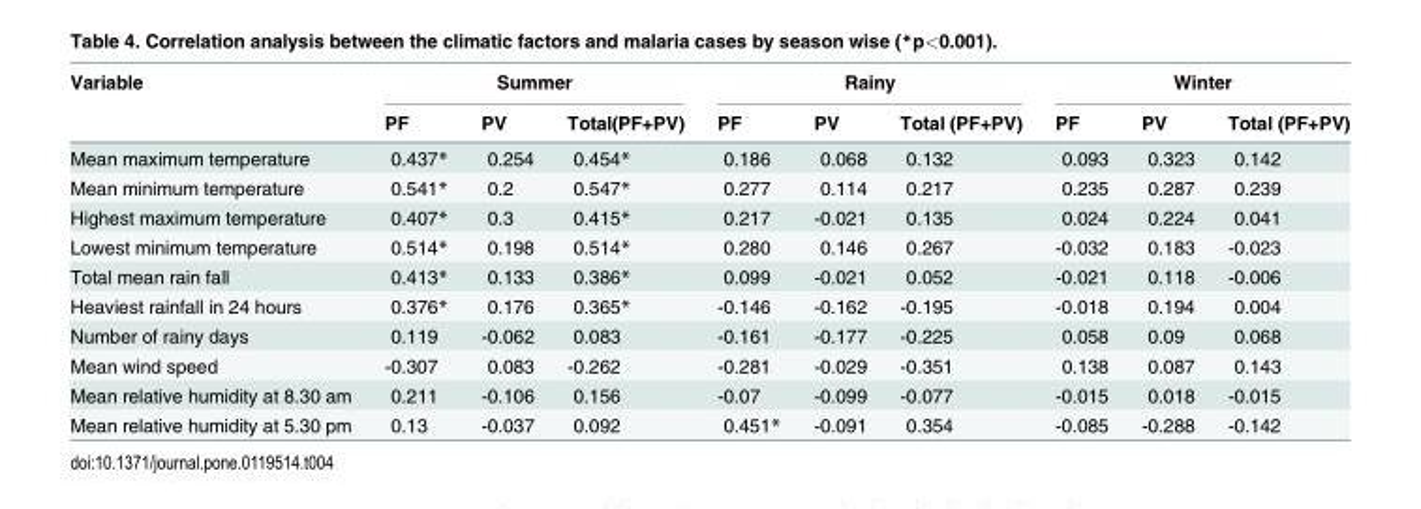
<table><thead><tr><td rowspan="2">Variable</td><td colspan="3">Summer</td><td colspan="3">Rainy</td><td colspan="3">Winter</td></tr><tr><td>PF</td><td>PV</td><td>Total(PF+PV)</td><td>PF</td><td>PV</td><td>Total (PF+PV)</td><td>PF</td><td>PV</td><td>Total (PF+PV)</td></tr></thead><tbody><tr><td>Mean maximum temperature</td><td>0.437*</td><td>0.254</td><td>0.454*</td><td>0.186</td><td>0.068</td><td>0.132</td><td>0.093</td><td>0.323</td><td>0.142</td></tr><tr><td>Mean minimum temperature</td><td>0.541*</td><td>0.2</td><td>0.547*</td><td>0.277</td><td>0.114</td><td>0.217</td><td>0.235</td><td>0.287</td><td>0.239</td></tr><tr><td>Highest maximum temperature</td><td>0.407*</td><td>0.3</td><td>0.415*</td><td>0.217</td><td>-0.021</td><td>0.135</td><td>0.024</td><td>0.224</td><td>0.041</td></tr><tr><td>Lowest minimum temperature</td><td>0.514*</td><td>0.198</td><td>0.514*</td><td>0.280</td><td>0.146</td><td>0.267</td><td>-0.032</td><td>0.183</td><td>-0.023</td></tr><tr><td>Total mean rain fall</td><td>0.413*</td><td>0.133</td><td>0.386*</td><td>0.099</td><td>-0.021</td><td>0.052</td><td>-0.021</td><td>0.118</td><td>-0.006</td></tr><tr><td>Heaviest rainfall in 24 hours</td><td>0.376*</td><td>0.176</td><td>0.365*</td><td>-0.146</td><td>-0.162</td><td>-0.195</td><td>-0.018</td><td>0.194</td><td>0.004</td></tr><tr><td>Number of rainy days</td><td>0.119</td><td>-0.062</td><td>0.083</td><td>-0.161</td><td>-0.177</td><td>-0.225</td><td>0.058</td><td>0.09</td><td>0.068</td></tr><tr><td>Mean wind speed</td><td>-0.307</td><td>0.083</td><td>-0.262</td><td>-0.281</td><td>-0.029</td><td>-0.351</td><td>0.138</td><td>0.087</td><td>0.143</td></tr><tr><td>Mean relative humidity at 8.30 am</td><td>0.211</td><td>-0.106</td><td>0.156</td><td>-0.07</td><td>-0.099</td><td>-0.077</td><td>-0.015</td><td>0.018</td><td>-0.015</td></tr><tr><td>Mean relative humidity at 5.30 pm</td><td>0.13</td><td>-0.037</td><td>0.092</td><td>0.451*</td><td>-0.091</td><td>0.354</td><td>-0.085</td><td>-0.288</td><td>-0.142</td></tr></tbody></table>